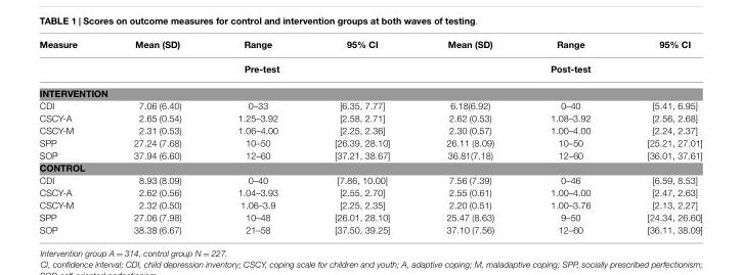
<table><thead><tr><td rowspan="2">Measure</td><td>Mean (SD)</td><td>Range</td><td>95% CI</td><td>Mean (SD)</td><td>Range</td><td>95% CI</td></tr><tr><td colspan="3">Pre-test</td><td colspan="3">Post-test</td></tr></thead><tbody><tr><td colspan="7">INTERVENTION</td></tr><tr><td>CDI</td><td>7.06 (6.40)</td><td>0–33</td><td>[6.35, 7.77]</td><td>6.18(6.92)</td><td>0–40</td><td>[5.41, 6.95]</td></tr><tr><td>CSCY-A</td><td>2.65 (0.54)</td><td>1.25–3.92</td><td>[2.58, 2.71]</td><td>2.62 (0.53)</td><td>1.08–3.92</td><td>[2.56, 2.68]</td></tr><tr><td>CSCY-M</td><td>2.31 (0.53)</td><td>1.06–4.00</td><td>[2.25, 2.36]</td><td>2.30 (0.57)</td><td>1.00–4.00</td><td>[2.24, 2.37]</td></tr><tr><td>SPP</td><td>27.24 (7.68)</td><td>10–50</td><td>[26.39, 28.10]</td><td>26.11 (8.09)</td><td>10–50</td><td>[25.21, 27.01]</td></tr><tr><td>SOP</td><td>37.94 (6.60)</td><td>12–60</td><td>[37.21, 38.67]</td><td>36.81(7.18)</td><td>12–60</td><td>[36.01, 37.61]</td></tr><tr><td colspan="7">CONTROL</td></tr><tr><td>CDI</td><td>8.93 (8.09)</td><td>0–40</td><td>[7.86, 10.00]</td><td>7.56 (7.39)</td><td>0–46</td><td>[6.59, 8.53]</td></tr><tr><td>CSCY-A</td><td>2.62 (0.56)</td><td>1.04–3.93</td><td>[2.55, 2.70]</td><td>2.55 (0.61)</td><td>1.00–4.00</td><td>[2.47, 2.63]</td></tr><tr><td>CSCY-M</td><td>2.32 (0.50)</td><td>1.06–3.9</td><td>[2.25, 2.35]</td><td>2.20 (0.51)</td><td>1.00–3.76</td><td>[2.13, 2.27]</td></tr><tr><td>SPP</td><td>27.06 (7.98)</td><td>10–48</td><td>[26.01, 28.10]</td><td>25.47 (8.63)</td><td>9–50</td><td>[24.34, 26.60]</td></tr><tr><td>SOP</td><td>38.38 (6.67)</td><td>21–58</td><td>[37.50, 39.25]</td><td>37.10 (7.56)</td><td>12–60</td><td>[36.11, 38.09]</td></tr></tbody></table>